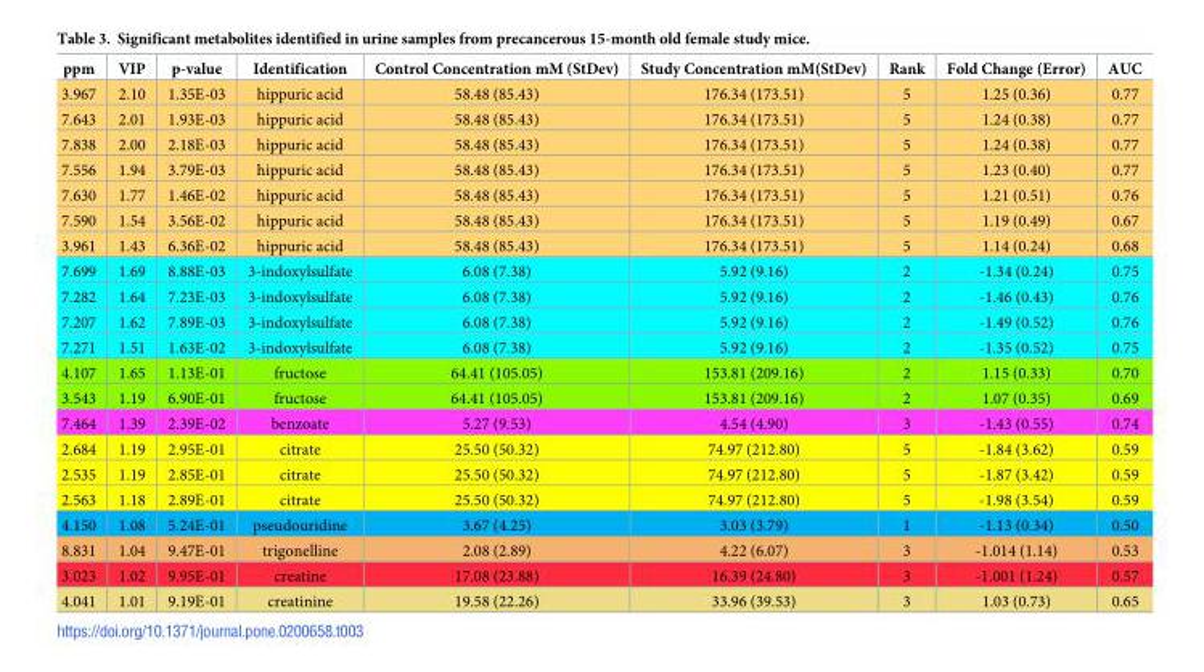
<table><thead><tr><td>ppm</td><td>VIP</td><td>p-value</td><td>Identification</td><td>Control Concentration mM (StDev)</td><td>Study Concentration mM(StDev)</td><td>Rank</td><td>Fold Change (Error)</td><td>AUC</td></tr></thead><tbody><tr><td>3.967</td><td>2.10</td><td>1.35E-03</td><td>hippuric acid</td><td>58.48 (85.43)</td><td>176.34 (173.51)</td><td>5</td><td>1.25 (0.36)</td><td>0.77</td></tr><tr><td>7.643</td><td>2.01</td><td>1.93E-03</td><td>hippuric acid</td><td>58.48 (85.43)</td><td>176.34 (173.51)</td><td>5</td><td>1.24 (0.38)</td><td>0.77</td></tr><tr><td>7.838</td><td>2.00</td><td>2.18E-03</td><td>hippuric acid</td><td>58.48 (85.43)</td><td>176.34 (173.51)</td><td>5</td><td>1.24 (0.38)</td><td>0.77</td></tr><tr><td>7.556</td><td>1.94</td><td>3.79E-03</td><td>hippuric acid</td><td>58.48 (85.43)</td><td>176.34 (173.51)</td><td>5</td><td>1.23 (0.40)</td><td>0.77</td></tr><tr><td>7.630</td><td>1.77</td><td>1.46E-02</td><td>hippuric acid</td><td>58.48 (85.43)</td><td>176.34 (173.51)</td><td>5</td><td>1.21 (0.51)</td><td>0.76</td></tr><tr><td>7.590</td><td>1.54</td><td>3.56E-02</td><td>hippuric acid</td><td>58.48 (85.43)</td><td>176.34 (173.51)</td><td>5</td><td>1.19 (0.49)</td><td>0.67</td></tr><tr><td>3.961</td><td>1.43</td><td>6.36E-02</td><td>hippuric acid</td><td>58.48 (85.43)</td><td>176.34 (173.51)</td><td>5</td><td>1.14 (0.24)</td><td>0.68</td></tr><tr><td>7.699</td><td>1.69</td><td>8.88E-03</td><td>3-indoxylsulfate</td><td>6.08 (7.38)</td><td>5.92 (9.16)</td><td>2</td><td>-1.34 (0.24)</td><td>0.75</td></tr><tr><td>7.282</td><td>1.64</td><td>7.23E-03</td><td>3-indoxylsulfate</td><td>6.08 (7.38)</td><td>5.92 (9.16)</td><td>2</td><td>-1.46 (0.43)</td><td>0.76</td></tr><tr><td>7.207</td><td>1.62</td><td>7.89E-03</td><td>3-indoxylsulfate</td><td>6.08 (7.38)</td><td>5.92 (9.16)</td><td>2</td><td>-1.49 (0.52)</td><td>0.76</td></tr><tr><td>7.271</td><td>1.51</td><td>1.63E-02</td><td>3-indoxylsulfate</td><td>6.08 (7.38)</td><td>5.92 (9.16)</td><td>2</td><td>-1.35 (0.52)</td><td>0.75</td></tr><tr><td>4.107</td><td>1.65</td><td>1.13E-01</td><td>fructose</td><td>64.41 (105.05)</td><td>153.81 (209.16)</td><td>2</td><td>1.15 (0.33)</td><td>0.70</td></tr><tr><td>3.543</td><td>1.19</td><td>6.90E-01</td><td>fructose</td><td>64.41 (105.05)</td><td>153.81 (209.16)</td><td>2</td><td>1.07 (0.35)</td><td>0.69</td></tr><tr><td>7.464</td><td>1.39</td><td>2.39E-02</td><td>benzoate</td><td>5.27 (9.53)</td><td>4.54 (4.90)</td><td>3</td><td>-1.43 (0.55)</td><td>0.74</td></tr><tr><td>2.684</td><td>1.19</td><td>2.95E-01</td><td>citrate</td><td>25.50 (50.32)</td><td>74.97 (212.80)</td><td>5</td><td>-1.84 (3.62)</td><td>0.59</td></tr><tr><td>2.535</td><td>1.19</td><td>2.85E-01</td><td>citrate</td><td>25.50 (50.32)</td><td>74.97 (212.80)</td><td>5</td><td>-1.87 (3.42)</td><td>0.59</td></tr><tr><td>2.563</td><td>1.18</td><td>2.89E-01</td><td>citrate</td><td>25.50 (50.32)</td><td>74.97 (212.80)</td><td>5</td><td>-1.98 (3.54)</td><td>0.59</td></tr><tr><td>4.150</td><td>1.08</td><td>5.24E-01</td><td>pseudouridine</td><td>3.67 (4.25)</td><td>3.03 (3.79)</td><td>1</td><td>-1.13 (0.34)</td><td>0.50</td></tr><tr><td>8.831</td><td>1.04</td><td>9.47E-01</td><td>trigonelline</td><td>2.08 (2.89)</td><td>4.22 (6.07)</td><td>3</td><td>-1.014 (1.14)</td><td>0.53</td></tr><tr><td>3.023</td><td>1.02</td><td>9.95E-01</td><td>creatine</td><td>17.08 (23.88)</td><td>16.39 (24.80)</td><td>3</td><td>-1.001 (1.24)</td><td>0.57</td></tr><tr><td>4.041</td><td>1.01</td><td>9.19E-01</td><td>creatinine</td><td>19.58 (22.26)</td><td>33.96 (39.53)</td><td>3</td><td>1.03 (0.73)</td><td>0.65</td></tr></tbody></table>